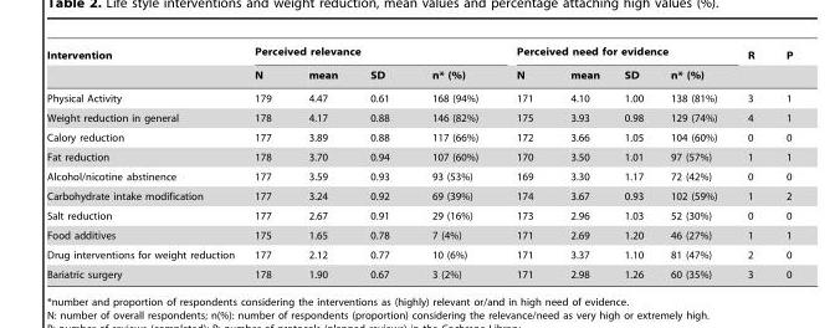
<table><thead><tr><td rowspan="2">Intervention</td><td colspan="4">Perceived relevance</td><td colspan="4">Perceived need for evidence</td><td rowspan="2">R</td><td rowspan="2">P</td></tr><tr><td>N</td><td>mean</td><td>SD</td><td>n* (%)</td><td>N</td><td>mean</td><td>SD</td><td>n* (%)</td></tr></thead><tbody><tr><td>Physical Activity</td><td>179</td><td>4.47</td><td>0.61</td><td>168 (94%)</td><td>171</td><td>4.10</td><td>1.00</td><td>138 (81%)</td><td>3</td><td>1</td></tr><tr><td>Weight reduction in general</td><td>178</td><td>4.17</td><td>0.88</td><td>146 (82%)</td><td>175</td><td>3.93</td><td>0.98</td><td>129 (74%)</td><td>4</td><td>1</td></tr><tr><td>Calory reduction</td><td>177</td><td>3.89</td><td>0.88</td><td>117 (66%)</td><td>172</td><td>3.66</td><td>1.05</td><td>104 (60%)</td><td>0</td><td>0</td></tr><tr><td>Fat reduction</td><td>178</td><td>3.70</td><td>0.94</td><td>107 (60%)</td><td>170</td><td>3.50</td><td>1.01</td><td>97 (57%)</td><td>1</td><td>1</td></tr><tr><td>Alcohol/nicotine abstinence</td><td>177</td><td>3.59</td><td>0.93</td><td>93 (53%)</td><td>169</td><td>3.30</td><td>1.17</td><td>72 (42%)</td><td>0</td><td>0</td></tr><tr><td>Carbohydrate intake modification</td><td>177</td><td>3.24</td><td>0.92</td><td>69 (39%)</td><td>174</td><td>3.67</td><td>0.93</td><td>102 (59%)</td><td>1</td><td>2</td></tr><tr><td>Salt reduction</td><td>177</td><td>2.67</td><td>0.91</td><td>29 (16%)</td><td>173</td><td>2.96</td><td>1.03</td><td>52 (30%)</td><td>0</td><td>0</td></tr><tr><td>Food additives</td><td>175</td><td>1.65</td><td>0.78</td><td>7 (4%)</td><td>171</td><td>2.69</td><td>1.20</td><td>46 (27%)</td><td>1</td><td>1</td></tr><tr><td>Drug interventions for weight reduction</td><td>177</td><td>2.12</td><td>0.77</td><td>10 (6%)</td><td>171</td><td>3.37</td><td>1.10</td><td>81 (47%)</td><td>2</td><td>0</td></tr><tr><td>Bariatric surgery</td><td>178</td><td>1.90</td><td>0.67</td><td>3 (2%)</td><td>171</td><td>2.98</td><td>1.26</td><td>60 (35%)</td><td>3</td><td>0</td></tr></tbody></table>